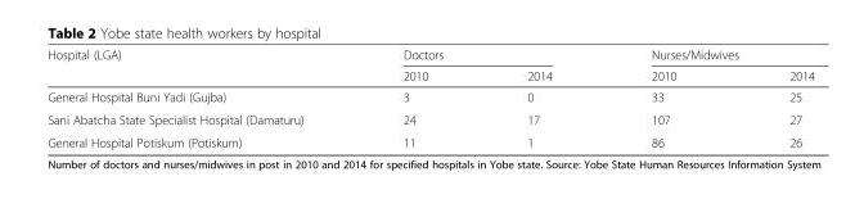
<table><thead><tr><td rowspan="2">Hospital (LGA)</td><td colspan="2">Doctors</td><td colspan="2">Nurses/Midwives</td></tr><tr><td>2010</td><td>2014</td><td>2010</td><td>2014</td></tr></thead><tbody><tr><td>General Hospital Buni Yadi (Gujba)</td><td>3</td><td>0</td><td>33</td><td>25</td></tr><tr><td>Sani Abatcha State Specialist Hospital (Damaturu)</td><td>24</td><td>17</td><td>107</td><td>27</td></tr><tr><td>General Hospital Potiskum (Potiskum)</td><td>11</td><td>1</td><td>86</td><td>26</td></tr></tbody></table>